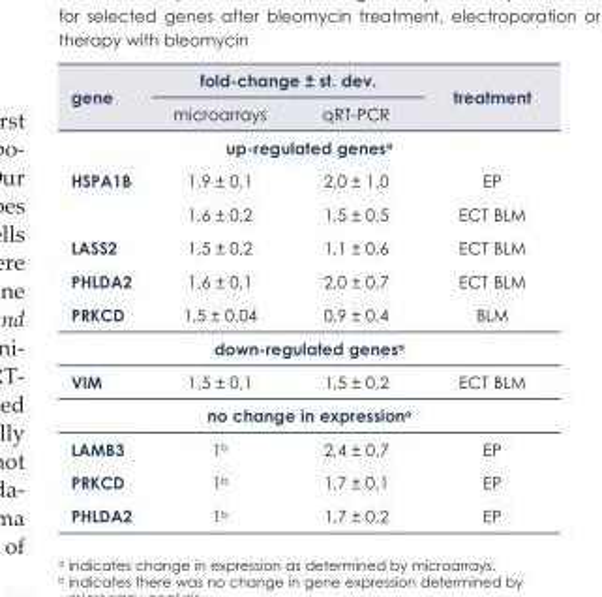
<table><thead><tr><td rowspan="2">gene</td><td colspan="2">fold-change ± st. dev.</td><td rowspan="2">treatment</td></tr><tr><td>microarrays</td><td>qRT-PCR</td></tr></thead><tbody><tr><td colspan="4">up-regulated genes<sup>a</sup></td></tr><tr><td rowspan="2">HSPA1B</td><td>1,9 ± 0,1</td><td>2,0 ± 1,0</td><td>EP</td></tr><tr><td>1,6 ± 0,2</td><td>1,5 ± 0,5</td><td>ECT BLM</td></tr><tr><td>LASS2</td><td>1,5 ± 0,2</td><td>1,1 ± 0,6</td><td>ECT BLM</td></tr><tr><td>PHLDA2</td><td>1,6 ± 0,1</td><td>2,0 ± 0,7</td><td>ECT BLM</td></tr><tr><td>PRKCD</td><td>1,5 ± 0,04</td><td>0,9 ± 0,4</td><td>BLM</td></tr><tr><td colspan="4">down-regulated genes<sup>a</sup></td></tr><tr><td>VIM</td><td>1,5 ± 0,1</td><td>1,5 ± 0,2</td><td>ECT BLM</td></tr><tr><td colspan="4">no change in expression<sup>a</sup></td></tr><tr><td>LAMB3</td><td>1<sup>b</sup></td><td>2,4 ± 0,7</td><td>EP</td></tr><tr><td>PRKCD</td><td>1<sup>b</sup></td><td>1,7 ± 0,1</td><td>EP</td></tr><tr><td>PHLDA2</td><td>1<sup>b</sup></td><td>1,7 ± 0,2</td><td>EP</td></tr></tbody></table>